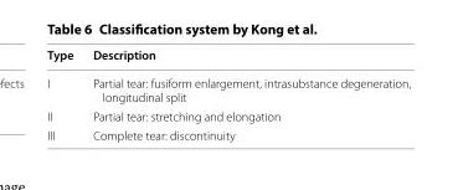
<table><thead><tr><td>Type</td><td>Description</td></tr></thead><tbody><tr><td>I</td><td>Partial tear: fusiform enlargement, intrasubstance degeneration, longitudinal split</td></tr><tr><td>II</td><td>Partial tear: stretching and elongation</td></tr><tr><td>III</td><td>Complete tear: discontinuity</td></tr></tbody></table>